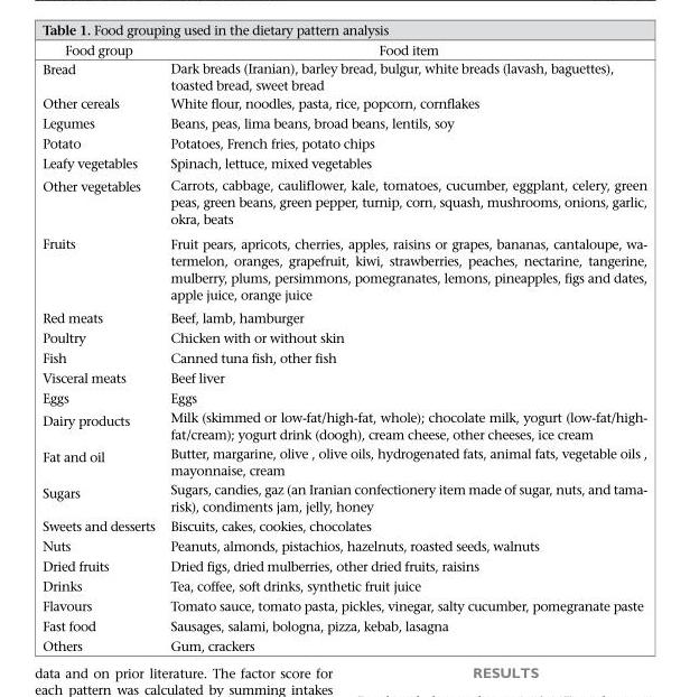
<table><thead><tr><td>Food group</td><td>Food item</td></tr></thead><tbody><tr><td>Bread</td><td>Dark breads (Iranian), barley bread, bulgur, white breads (lavash, baguettes), toasted bread, sweet bread</td></tr><tr><td>Other cereals</td><td>White flour, noodles, pasta, rice, popcorn, cornflakes</td></tr><tr><td>Legumes</td><td>Beans, peas, lima beans, broad beans, lentils, soy</td></tr><tr><td>Potato</td><td>Potatoes, French fries, potato chips</td></tr><tr><td>Leafy vegetables</td><td>Spinach, lettuce, mixed vegetables</td></tr><tr><td>Other vegetables</td><td>Carrots, cabbage, cauliflower, kale, tomatoes, cucumber, eggplant, celery, green peas, green beans, green pepper, turnip, corn, squash, mushrooms, onions, garlic, okra, beats</td></tr><tr><td>Fruits</td><td>Fruit pears, apricots, cherries, apples, raisins or grapes, bananas, cantaloupe, wa- termelon, oranges, grapefruit, kiwi, strawberries, peaches, nectarine, tangerine, mulberry, plums, persimmons, pomegranates, lemons, pineapples, figs and dates, apple juice, orange juice</td></tr><tr><td>Red meats</td><td>Beef, lamb, hamburger</td></tr><tr><td>Poultry</td><td>Chicken with or without skin</td></tr><tr><td>Fish</td><td>Canned tuna fish, other fish</td></tr><tr><td>Visceral meats</td><td>Beef liver</td></tr><tr><td>Eggs</td><td>Eggs</td></tr><tr><td>Dairy products</td><td>Milk (skimmed or low-fat/high-fat, whole); chocolate milk, yogurt (low-fat/high- fat/cream); yogurt drink (doogh), cream cheese, other cheeses, ice cream</td></tr><tr><td>Fat and oil</td><td>Butter, margarine, olive , olive oils, hydrogenated fats, animal fats, vegetable oils , mayonnaise, cream</td></tr><tr><td>Sugars</td><td>Sugars, candies, gaz (an Iranian confectionery item made of sugar, nuts, and tama- risk), condiments jam, jelly, honey</td></tr><tr><td>Sweets and desserts</td><td>Biscuits, cakes, cookies, chocolates</td></tr><tr><td>Nuts</td><td>Peanuts, almonds, pistachios, hazelnuts, roasted seeds, walnuts</td></tr><tr><td>Dried fruits</td><td>Dried figs, dried mulberries, other dried fruits, raisins</td></tr><tr><td>Drinks</td><td>Tea, coffee, soft drinks, synthetic fruit juice</td></tr><tr><td>Flavours</td><td>Tomato sauce, tomato pasta, pickles, vinegar, salty cucumber, pomegranate paste</td></tr><tr><td>Fast food</td><td>Sausages, salami, bologna, pizza, kebab, lasagna</td></tr><tr><td>Others</td><td>Gum, crackers</td></tr></tbody></table>